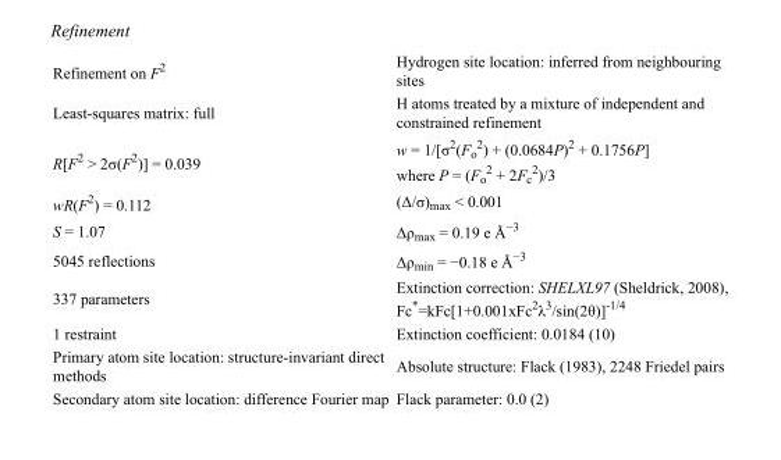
<table><tbody><tr><td>Refinement on F<sup>2</sup></td><td>Hydrogen site location: inferred from neighbouring sites</td></tr><tr><td>Least-squares matrix: full</td><td>H atoms treated by a mixture of independent and constrained refinement</td></tr><tr><td>R[F<sup>2</sup> &gt; 2σ(F<sup>2</sup>)] = 0.039</td><td>w = 1/[σ<sup>2</sup>(F<sub>o</sub> <sup>2</sup>) + (0.0684P)<sup>2</sup> + 0.1756P] where P = (F<sub>o</sub> <sup>2</sup> + 2F<sub>c</sub> <sup>2</sup>)/3</td></tr><tr><td>wR(F<sup>2</sup>) = 0.112</td><td>(Δ/σ)<sub>max</sub> &lt; 0.001</td></tr><tr><td>S = 1.07</td><td>Δρ<sub>max</sub> = 0.19 e Å<sup>−3</sup></td></tr><tr><td>5045 reflections</td><td>Δρ<sub>min</sub> = −0.18 e Å<sup>−3</sup></td></tr><tr><td>337 parameters</td><td>Extinction correction: SHELXL97 (Sheldrick, 2008), Fc*=kFc[1+0.001xFc<sup>2</sup>λ<sup>3</sup>/sin(2θ)]<sup>-1/4</sup></td></tr><tr><td>1 restraint</td><td>Extinction coefficient: 0.0184 (10)</td></tr><tr><td>Primary atom site location: structure-invariant direct methods</td><td>Absolute structure: Flack (1983), 2248 Friedel pairs</td></tr><tr><td>Secondary atom site location: difference Fourier map</td><td>Flack parameter: 0.0 (2)</td></tr></tbody></table>